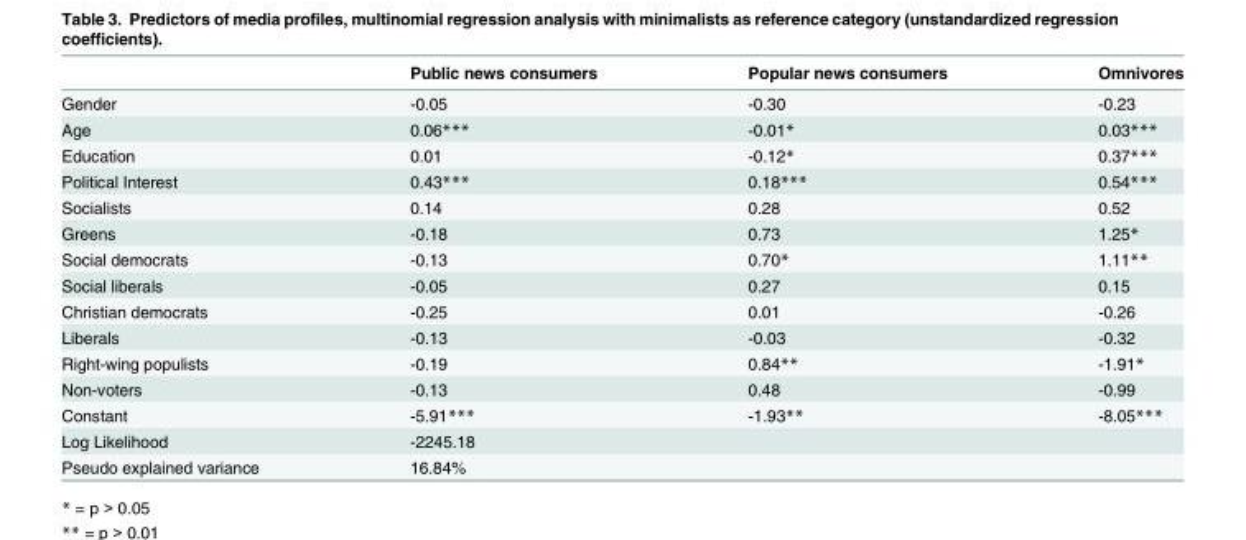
<table><thead><tr><td></td><td>Public news consumers</td><td>Popular news consumers</td><td>Omnivores</td></tr></thead><tbody><tr><td>Gender</td><td>-0.05</td><td>-0.30</td><td>-0.23</td></tr><tr><td>Age</td><td>0.06***</td><td>-0.01*</td><td>0.03***</td></tr><tr><td>Education</td><td>0.01</td><td>-0.12*</td><td>0.37***</td></tr><tr><td>Political Interest</td><td>0.43***</td><td>0.18***</td><td>0.54***</td></tr><tr><td>Socialists</td><td>0.14</td><td>0.28</td><td>0.52</td></tr><tr><td>Greens</td><td>-0.18</td><td>0.73</td><td>1.25*</td></tr><tr><td>Social democrats</td><td>-0.13</td><td>0.70*</td><td>1.11**</td></tr><tr><td>Social liberals</td><td>-0.05</td><td>0.27</td><td>0.15</td></tr><tr><td>Christian democrats</td><td>-0.25</td><td>0.01</td><td>-0.26</td></tr><tr><td>Liberals</td><td>-0.13</td><td>-0.03</td><td>-0.32</td></tr><tr><td>Right-wing populists</td><td>-0.19</td><td>0.84**</td><td>-1.91*</td></tr><tr><td>Non-voters</td><td>-0.13</td><td>0.48</td><td>-0.99</td></tr><tr><td>Constant</td><td>-5.91***</td><td>-1.93**</td><td>-8.05***</td></tr><tr><td>Log Likelihood</td><td>-2245.18</td><td></td><td></td></tr><tr><td>Pseudo explained variance</td><td>16.84%</td><td></td><td></td></tr></tbody></table>